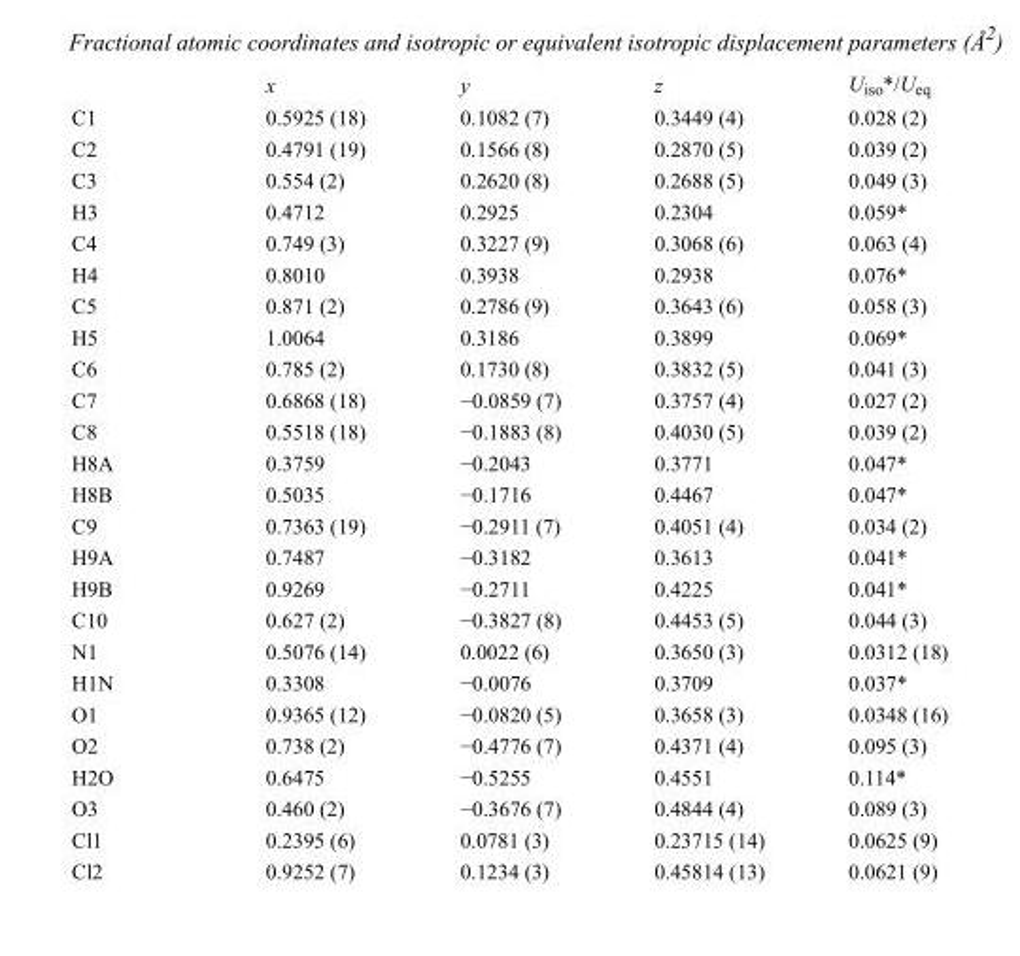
<table><thead><tr><td></td><td>x</td><td>y</td><td>z</td><td>U<sub>iso</sub>*/U<sub>eq</sub></td></tr></thead><tbody><tr><td>C1</td><td>0.5925 (18)</td><td>0.1082 (7)</td><td>0.3449 (4)</td><td>0.028 (2)</td></tr><tr><td>C2</td><td>0.4791 (19)</td><td>0.1566 (8)</td><td>0.2870 (5)</td><td>0.039 (2)</td></tr><tr><td>C3</td><td>0.554 (2)</td><td>0.2620 (8)</td><td>0.2688 (5)</td><td>0.049 (3)</td></tr><tr><td>H3</td><td>0.4712</td><td>0.2925</td><td>0.2304</td><td>0.059*</td></tr><tr><td>C4</td><td>0.749 (3)</td><td>0.3227 (9)</td><td>0.3068 (6)</td><td>0.063 (4)</td></tr><tr><td>H4</td><td>0.8010</td><td>0.3938</td><td>0.2938</td><td>0.076*</td></tr><tr><td>C5</td><td>0.871 (2)</td><td>0.2786 (9)</td><td>0.3643 (6)</td><td>0.058 (3)</td></tr><tr><td>H5</td><td>1.0064</td><td>0.3186</td><td>0.3899</td><td>0.069*</td></tr><tr><td>C6</td><td>0.785 (2)</td><td>0.1730 (8)</td><td>0.3832 (5)</td><td>0.041 (3)</td></tr><tr><td>C7</td><td>0.6868 (18)</td><td>−0.0859 (7)</td><td>0.3757 (4)</td><td>0.027 (2)</td></tr><tr><td>C8</td><td>0.5518 (18)</td><td>−0.1883 (8)</td><td>0.4030 (5)</td><td>0.039 (2)</td></tr><tr><td>H8A</td><td>0.3759</td><td>−0.2043</td><td>0.3771</td><td>0.047*</td></tr><tr><td>H8B</td><td>0.5035</td><td>−0.1716</td><td>0.4467</td><td>0.047*</td></tr><tr><td>C9</td><td>0.7363 (19)</td><td>−0.2911 (7)</td><td>0.4051 (4)</td><td>0.034 (2)</td></tr><tr><td>H9A</td><td>0.7487</td><td>−0.3182</td><td>0.3613</td><td>0.041*</td></tr><tr><td>H9B</td><td>0.9269</td><td>−0.2711</td><td>0.4225</td><td>0.041*</td></tr><tr><td>C10</td><td>0.627 (2)</td><td>−0.3827 (8)</td><td>0.4453 (5)</td><td>0.044 (3)</td></tr><tr><td>N1</td><td>0.5076 (14)</td><td>0.0022 (6)</td><td>0.3650 (3)</td><td>0.0312 (18)</td></tr><tr><td>H1N</td><td>0.3308</td><td>−0.0076</td><td>0.3709</td><td>0.037*</td></tr><tr><td>O1</td><td>0.9365 (12)</td><td>−0.0820 (5)</td><td>0.3658 (3)</td><td>0.0348 (16)</td></tr><tr><td>O2</td><td>0.738 (2)</td><td>−0.4776 (7)</td><td>0.4371 (4)</td><td>0.095 (3)</td></tr><tr><td>H2O</td><td>0.6475</td><td>−0.5255</td><td>0.4551</td><td>0.114*</td></tr><tr><td>O3</td><td>0.460 (2)</td><td>−0.3676 (7)</td><td>0.4844 (4)</td><td>0.089 (3)</td></tr><tr><td>Cl1</td><td>0.2395 (6)</td><td>0.0781 (3)</td><td>0.23715 (14)</td><td>0.0625 (9)</td></tr><tr><td>Cl2</td><td>0.9252 (7)</td><td>0.1234 (3)</td><td>0.45814 (13)</td><td>0.0621 (9)</td></tr></tbody></table>